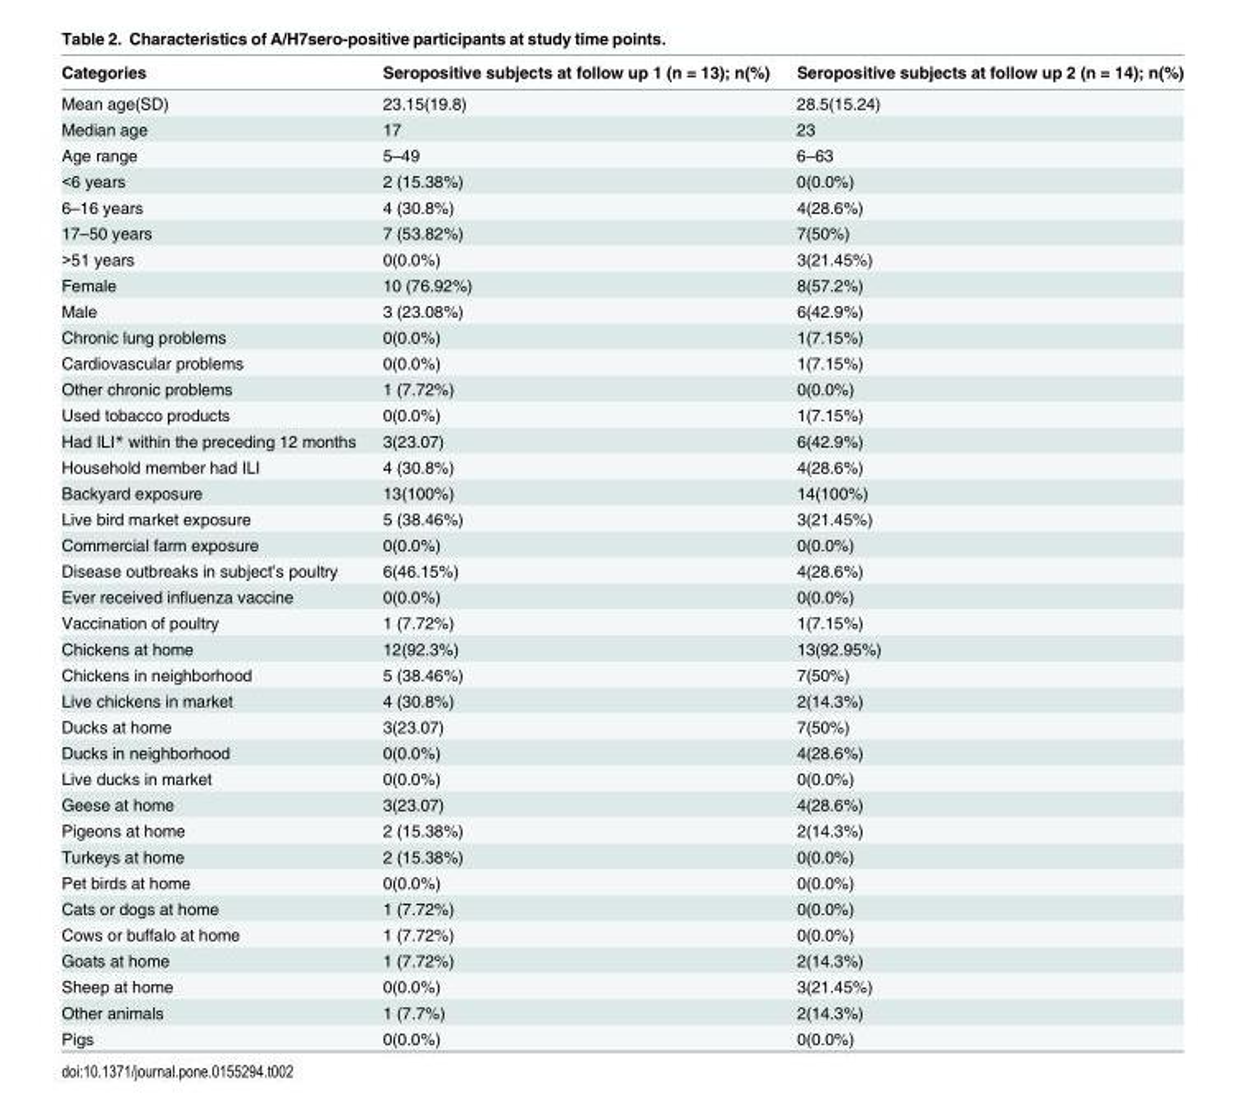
<table><thead><tr><td>Categories</td><td>Seropositive subjects at follow up 1 (n = 13); n(%)</td><td>Seropositive subjects at follow up 2 (n = 14); n(%)</td></tr></thead><tbody><tr><td>Mean age(SD)</td><td>23.15(19.8)</td><td>28.5(15.24)</td></tr><tr><td>Median age</td><td>17</td><td>23</td></tr><tr><td>Age range</td><td>5–49</td><td>6–63</td></tr><tr><td>&lt;6 years</td><td>2 (15.38%)</td><td>0(0.0%)</td></tr><tr><td>6–16 years</td><td>4 (30.8%)</td><td>4(28.6%)</td></tr><tr><td>17–50 years</td><td>7 (53.82%)</td><td>7(50%)</td></tr><tr><td>&gt;51 years</td><td>0(0.0%)</td><td>3(21.45%)</td></tr><tr><td>Female</td><td>10 (76.92%)</td><td>8(57.2%)</td></tr><tr><td>Male</td><td>3 (23.08%)</td><td>6(42.9%)</td></tr><tr><td>Chronic lung problems</td><td>0(0.0%)</td><td>1(7.15%)</td></tr><tr><td>Cardiovascular problems</td><td>0(0.0%)</td><td>1(7.15%)</td></tr><tr><td>Other chronic problems</td><td>1 (7.72%)</td><td>0(0.0%)</td></tr><tr><td>Used tobacco products</td><td>0(0.0%)</td><td>1(7.15%)</td></tr><tr><td>Had ILI* within the preceding 12 months</td><td>3(23.07)</td><td>6(42.9%)</td></tr><tr><td>Household member had ILI</td><td>4 (30.8%)</td><td>4(28.6%)</td></tr><tr><td>Backyard exposure</td><td>13(100%)</td><td>14(100%)</td></tr><tr><td>Live bird market exposure</td><td>5 (38.46%)</td><td>3(21.45%)</td></tr><tr><td>Commercial farm exposure</td><td>0(0.0%)</td><td>0(0.0%)</td></tr><tr><td>Disease outbreaks in subject’s poultry</td><td>6(46.15%)</td><td>4(28.6%)</td></tr><tr><td>Ever received influenza vaccine</td><td>0(0.0%)</td><td>0(0.0%)</td></tr><tr><td>Vaccination of poultry</td><td>1 (7.72%)</td><td>1(7.15%)</td></tr><tr><td>Chickens at home</td><td>12(92.3%)</td><td>13(92.95%)</td></tr><tr><td>Chickens in neighborhood</td><td>5 (38.46%)</td><td>7(50%)</td></tr><tr><td>Live chickens in market</td><td>4 (30.8%)</td><td>2(14.3%)</td></tr><tr><td>Ducks at home</td><td>3(23.07)</td><td>7(50%)</td></tr><tr><td>Ducks in neighborhood</td><td>0(0.0%)</td><td>4(28.6%)</td></tr><tr><td>Live ducks in market</td><td>0(0.0%)</td><td>0(0.0%)</td></tr><tr><td>Geese at home</td><td>3(23.07)</td><td>4(28.6%)</td></tr><tr><td>Pigeons at home</td><td>2 (15.38%)</td><td>2(14.3%)</td></tr><tr><td>Turkeys at home</td><td>2 (15.38%)</td><td>0(0.0%)</td></tr><tr><td>Pet birds at home</td><td>0(0.0%)</td><td>0(0.0%)</td></tr><tr><td>Cats or dogs at home</td><td>1 (7.72%)</td><td>0(0.0%)</td></tr><tr><td>Cows or buffalo at home</td><td>1 (7.72%)</td><td>0(0.0%)</td></tr><tr><td>Goats at home</td><td>1 (7.72%)</td><td>2(14.3%)</td></tr><tr><td>Sheep at home</td><td>0(0.0%)</td><td>3(21.45%)</td></tr><tr><td>Other animals</td><td>1 (7.7%)</td><td>2(14.3%)</td></tr><tr><td>Pigs</td><td>0(0.0%)</td><td>0(0.0%)</td></tr></tbody></table>